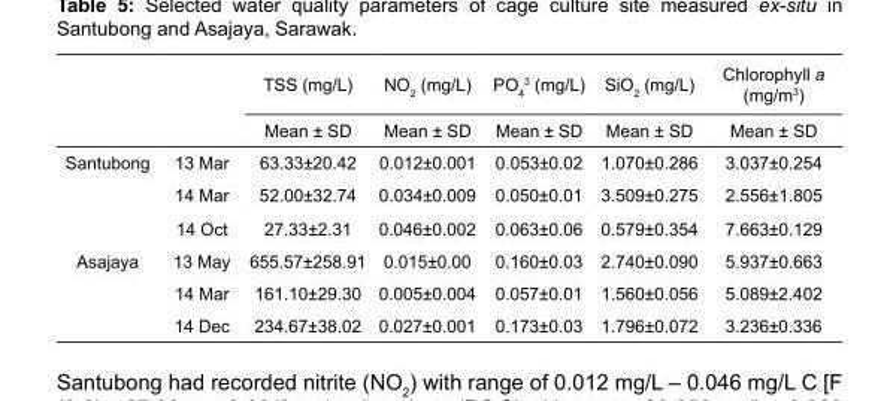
<table><thead><tr><td rowspan="2"></td><td rowspan="2"></td><td rowspan="2">TSS (mg/L) Mean ± SD</td><td rowspan="2">NO<sub>2</sub> (mg/L) Mean ± SD</td><td rowspan="2">PO<sub>4</sub> <sup>3</sup> (mg/L) Mean ± SD</td><td rowspan="2">SiO<sub>2</sub> (mg/L) Mean ± SD</td><td rowspan="2">Chlorophyll a (mg/m<sup>3</sup>) Mean ± SD</td></tr><tr></tr></thead><tbody><tr><td rowspan="3">Santubong</td><td>13 Mar</td><td>63.33±20.42</td><td>0.012±0.001</td><td>0.053±0.02</td><td>1.070±0.286</td><td>3.037±0.254</td></tr><tr><td>14 Mar</td><td>52.00±32.74</td><td>0.034±0.009</td><td>0.050±0.01</td><td>3.509±0.275</td><td>2.556±1.805</td></tr><tr><td>14 Oct</td><td>27.33±2.31</td><td>0.046±0.002</td><td>0.063±0.06</td><td>0.579±0.354</td><td>7.663±0.129</td></tr><tr><td rowspan="3">Asajaya</td><td>13 May</td><td>655.57±258.91</td><td>0.015±0.00</td><td>0.160±0.03</td><td>2.740±0.090</td><td>5.937±0.663</td></tr><tr><td>14 Mar</td><td>161.10±29.30</td><td>0.005±0.004</td><td>0.057±0.01</td><td>1.560±0.056</td><td>5.089±2.402</td></tr><tr><td>14 Dec</td><td>234.67±38.02</td><td>0.027±0.001</td><td>0.173±0.03</td><td>1.796±0.072</td><td>3.236±0.336</td></tr></tbody></table>